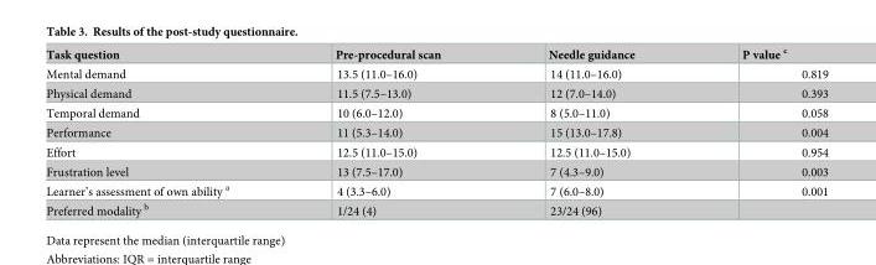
<table><thead><tr><td>Task question</td><td>Pre-procedural scan</td><td>Needle guidance</td><td>P value <sup>c</sup></td></tr></thead><tbody><tr><td>Mental demand</td><td>13.5 (11.0–16.0)</td><td>14 (11.0–16.0)</td><td>0.819</td></tr><tr><td>Physical demand</td><td>11.5 (7.5–13.0)</td><td>12 (7.0–14.0)</td><td>0.393</td></tr><tr><td>Temporal demand</td><td>10 (6.0–12.0)</td><td>8 (5.0–11.0)</td><td>0.058</td></tr><tr><td>Performance</td><td>11 (5.3–14.0)</td><td>15 (13.0–17.8)</td><td>0.004</td></tr><tr><td>Effort</td><td>12.5 (11.0–15.0)</td><td>12.5 (11.0–15.0)</td><td>0.954</td></tr><tr><td>Frustration level</td><td>13 (7.5–17.0)</td><td>7 (4.3–9.0)</td><td>0.003</td></tr><tr><td>Learner’s assessment of own ability <sup>a</sup></td><td>4 (3.3–6.0)</td><td>7 (6.0–8.0)</td><td>0.001</td></tr><tr><td>Preferred modality <sup>b</sup></td><td>1/24 (4)</td><td>23/24 (96)</td><td></td></tr></tbody></table>